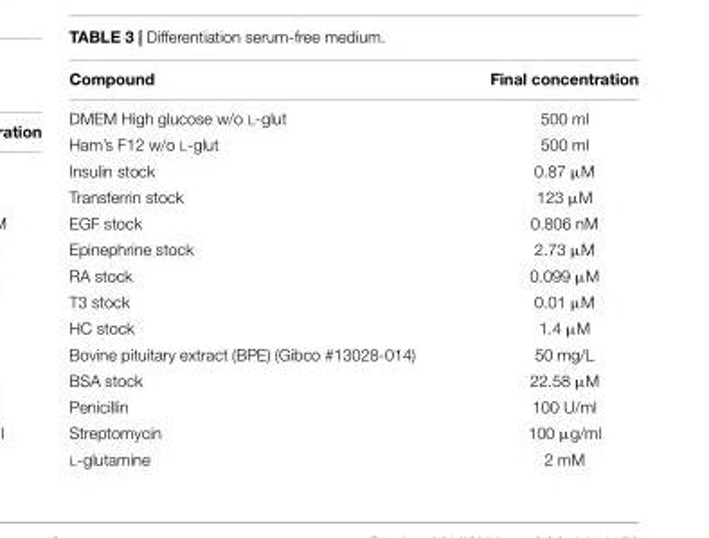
<table><thead><tr><td>Compound</td><td>Final concentration</td></tr></thead><tbody><tr><td>DMEM High glucose w/o L-glut</td><td>500 ml</td></tr><tr><td>Ham’s F12 w/o L-glut</td><td>500 ml</td></tr><tr><td>Insulin stock</td><td>0.87 µM</td></tr><tr><td>Transferrin stock</td><td>123 µM</td></tr><tr><td>EGF stock</td><td>0.806 nM</td></tr><tr><td>Epinephrine stock</td><td>2.73 µM</td></tr><tr><td>RA stock</td><td>0.099 µM</td></tr><tr><td>T3 stock</td><td>0.01 µM</td></tr><tr><td>HC stock</td><td>1.4 µM</td></tr><tr><td>Bovine pituitary extract (BPE) (Gibco #13028-014)</td><td>50 mg/L</td></tr><tr><td>BSA stock</td><td>22.58 µM</td></tr><tr><td>Penicillin</td><td>100 U/ml</td></tr><tr><td>Streptomycin</td><td>100 µg/ml</td></tr><tr><td>L-glutamine</td><td>2 mM</td></tr></tbody></table>